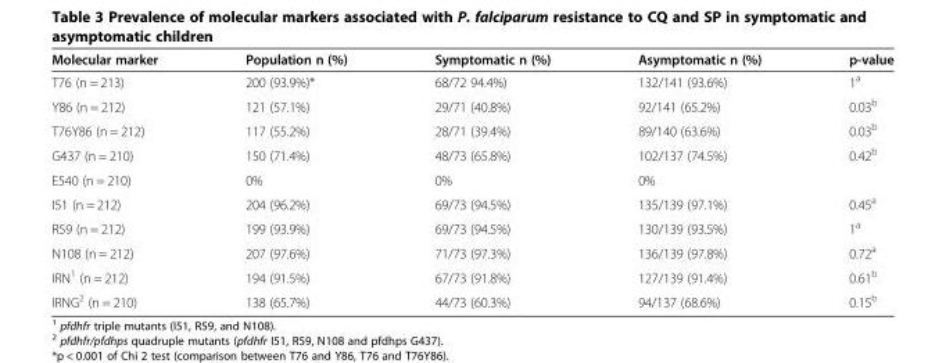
<table><thead><tr><td>Molecular marker</td><td>Population n (%)</td><td>Symptomatic n (%)</td><td>Asymptomatic n (%)</td><td>p-value</td></tr></thead><tbody><tr><td>T76 (n = 213)</td><td>200 (93.9%)*</td><td>68/72 94.4%)</td><td>132/141 (93.6%)</td><td>1<sup>a</sup></td></tr><tr><td>Y86 (n = 212)</td><td>121 (57.1%)</td><td>29/71 (40.8%)</td><td>92/141 (65.2%)</td><td>0.03<sup>b</sup></td></tr><tr><td>T76Y86 (n = 212)</td><td>117 (55.2%)</td><td>28/71 (39.4%)</td><td>89/140 (63.6%)</td><td>0.03<sup>b</sup></td></tr><tr><td>G437 (n = 210)</td><td>150 (71.4%)</td><td>48/73 (65.8%)</td><td>102/137 (74.5%)</td><td>0.42<sup>b</sup></td></tr><tr><td>E540 (n = 210)</td><td>0%</td><td>0%</td><td>0%</td><td></td></tr><tr><td>I51 (n = 212)</td><td>204 (96.2%)</td><td>69/73 (94.5%)</td><td>135/139 (97.1%)</td><td>0.45<sup>a</sup></td></tr><tr><td>R59 (n = 212)</td><td>199 (93.9%)</td><td>69/73 (94.5%)</td><td>130/139 (93.5%)</td><td>1<sup>a</sup></td></tr><tr><td>N108 (n = 212)</td><td>207 (97.6%)</td><td>71/73 (97.3%)</td><td>136/139 (97.8%)</td><td>0.72<sup>a</sup></td></tr><tr><td>IRN<sup>1</sup> (n = 212)</td><td>194 (91.5%)</td><td>67/73 (91.8%)</td><td>127/139 (91.4%)</td><td>0.61<sup>b</sup></td></tr><tr><td>IRNG<sup>2</sup> (n = 210)</td><td>138 (65.7%)</td><td>44/73 (60.3%)</td><td>94/137 (68.6%)</td><td>0.15<sup>b</sup></td></tr></tbody></table>